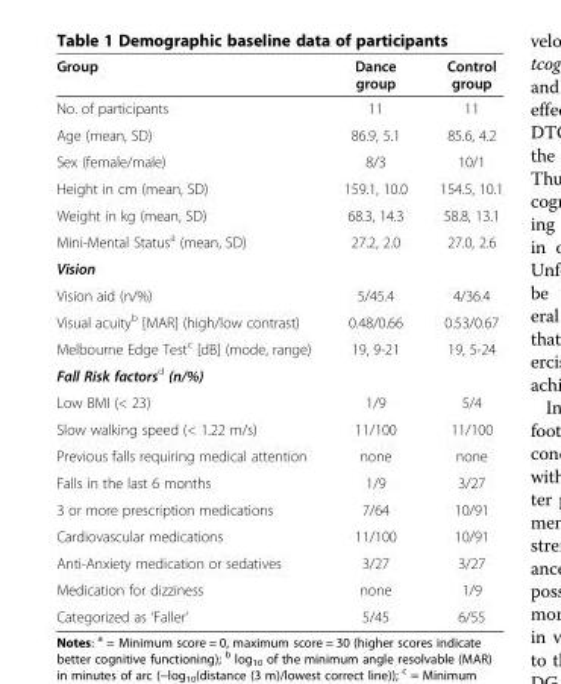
<table><thead><tr><td>Group</td><td>Dance group</td><td>Control group</td></tr></thead><tbody><tr><td>No. of participants</td><td>11</td><td>11</td></tr><tr><td>Age (mean, SD)</td><td>86.9, 5.1</td><td>85.6, 4.2</td></tr><tr><td>Sex (female/male)</td><td>8/3</td><td>10/1</td></tr><tr><td>Height in cm (mean, SD)</td><td>159.1, 10.0</td><td>154.5, 10.1</td></tr><tr><td>Weight in kg (mean, SD)</td><td>68.3, 14.3</td><td>58.8, 13.1</td></tr><tr><td>Mini-Mental Status<sup>a</sup> (mean, SD)</td><td>27.2, 2.0</td><td>27.0, 2.6</td></tr><tr><td colspan="3">Vision</td></tr><tr><td>Vision aid (n/%)</td><td>5/45.4</td><td>4/36.4</td></tr><tr><td>Visual acuity<sup>b</sup> [MAR] (high/low contrast)</td><td>0.48/0.66</td><td>0.53/0.67</td></tr><tr><td>Melbourne Edge Test<sup>c</sup> [dB] (mode, range)</td><td>19, 9-21</td><td>19, 5-24</td></tr><tr><td colspan="3">Fall Risk factors<sup>d</sup> (n/%)</td></tr><tr><td>Low BMI (&lt; 23)</td><td>1/9</td><td>5/4</td></tr><tr><td>Slow walking speed (&lt; 1.22 m/s)</td><td>11/100</td><td>11/100</td></tr><tr><td>Previous falls requiring medical attention</td><td>none</td><td>none</td></tr><tr><td>Falls in the last 6 months</td><td>1/9</td><td>3/27</td></tr><tr><td>3 or more prescription medications</td><td>7/64</td><td>10/91</td></tr><tr><td>Cardiovascular medications</td><td>11/100</td><td>10/91</td></tr><tr><td>Anti-Anxiety medication or sedatives</td><td>3/27</td><td>3/27</td></tr><tr><td>Medication for dizziness</td><td>none</td><td>1/9</td></tr><tr><td>Categorized as ‘Faller’</td><td>5/45</td><td>6/55</td></tr></tbody></table>